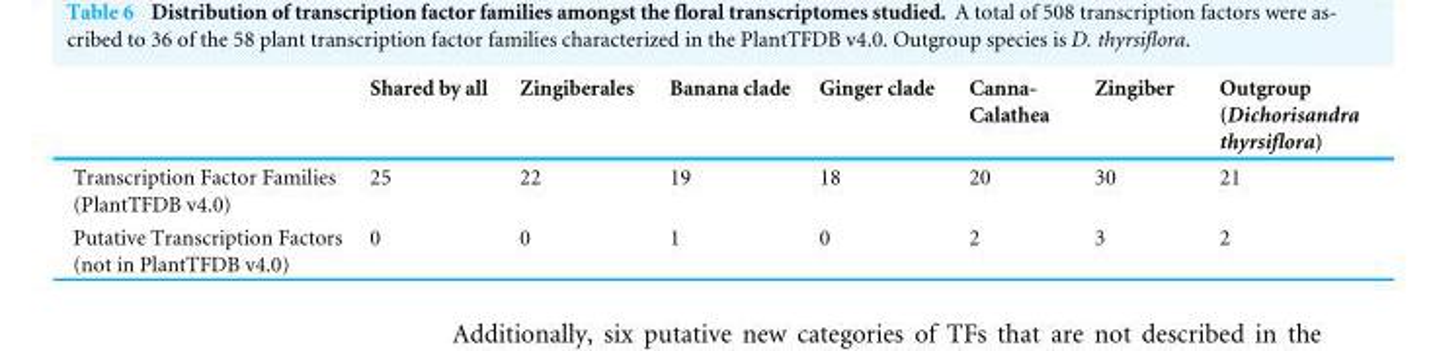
<table><thead><tr><td></td><td>Shared by all</td><td>Zingiberales</td><td>Banana clade</td><td>Ginger clade</td><td>Canna- Calathea</td><td>Zingiber</td><td>Outgroup (Dichorisandra thyrsiflora)</td></tr></thead><tbody><tr><td>Transcription Factor Families (PlantTFDB v4.0)</td><td>25</td><td>22</td><td>19</td><td>18</td><td>20</td><td>30</td><td>21</td></tr><tr><td>Putative Transcription Factors (not in PlantTFDB v4.0)</td><td>0</td><td>0</td><td>1</td><td>0</td><td>2</td><td>3</td><td>2</td></tr></tbody></table>